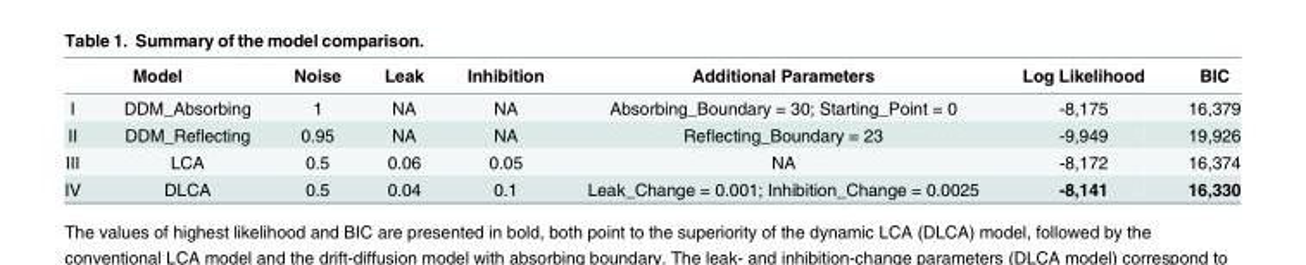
<table><thead><tr><td colspan="2">Model</td><td rowspan="2">Noise 1</td><td rowspan="2">Leak NA</td><td rowspan="2">Inhibition NA</td><td rowspan="2">Additional Parameters Absorbing_Boundary = 30; Starting_Point = 0</td><td rowspan="2">Log Likelihood -8,175</td><td rowspan="2">BIC 16,379</td></tr><tr><td>I</td><td>DDM_Absorbing</td></tr></thead><tbody><tr><td>II</td><td>DDM_Reflecting</td><td>0.95</td><td>NA</td><td>NA</td><td>Reflecting_Boundary = 23</td><td>-9,949</td><td>19,926</td></tr><tr><td>III</td><td>LCA</td><td>0.5</td><td>0.06</td><td>0.05</td><td>NA</td><td>-8,172</td><td>16,374</td></tr><tr><td>IV</td><td>DLCA</td><td>0.5</td><td>0.04</td><td>0.1</td><td>Leak_Change = 0.001; Inhibition_Change = 0.0025</td><td>-8,141</td><td>16,330</td></tr></tbody></table>